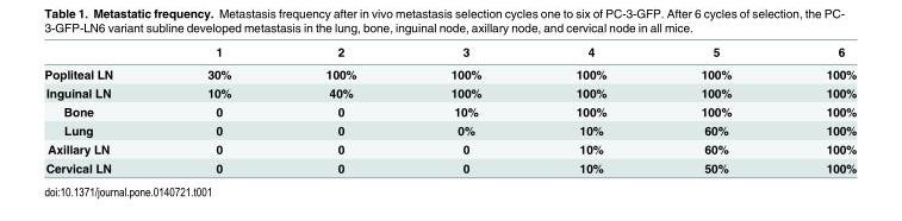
<table><thead><tr><td></td><td>1</td><td>2</td><td>3</td><td>4</td><td>5</td><td>6</td></tr></thead><tbody><tr><td>Popliteal LN</td><td>30%</td><td>100%</td><td>100%</td><td>100%</td><td>100%</td><td>100%</td></tr><tr><td>Inguinal LN</td><td>10%</td><td>40%</td><td>100%</td><td>100%</td><td>100%</td><td>100%</td></tr><tr><td>Bone</td><td>0</td><td>0</td><td>10%</td><td>100%</td><td>100%</td><td>100%</td></tr><tr><td>Lung</td><td>0</td><td>0</td><td>0%</td><td>10%</td><td>60%</td><td>100%</td></tr><tr><td>Axillary LN</td><td>0</td><td>0</td><td>0</td><td>10%</td><td>60%</td><td>100%</td></tr><tr><td>Cervical LN</td><td>0</td><td>0</td><td>0</td><td>10%</td><td>50%</td><td>100%</td></tr></tbody></table>